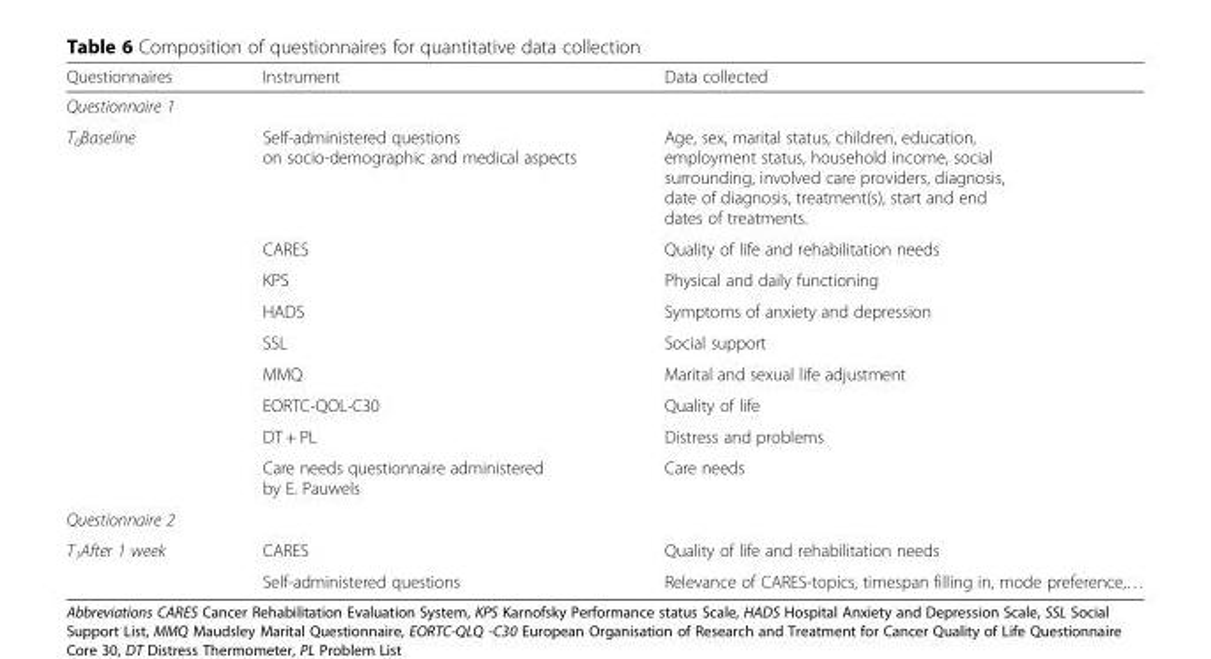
<table><thead><tr><td>Questionnaires</td><td>Instrument</td><td>Data collected</td></tr></thead><tbody><tr><td colspan="3">Questionnaire 1</td></tr><tr><td rowspan="9">T<sub>0</sub>Baseline</td><td>Self-administered questions on socio-demographic and medical aspects</td><td>Age, sex, marital status, children, education, employment status, household income, social surrounding, involved care providers, diagnosis, date of diagnosis, treatment(s), start and end dates of treatments.</td></tr><tr><td>CARES</td><td>Quality of life and rehabilitation needs</td></tr><tr><td>KPS</td><td>Physical and daily functioning</td></tr><tr><td>HADS</td><td>Symptoms of anxiety and depression</td></tr><tr><td>SSL</td><td>Social support</td></tr><tr><td>MMQ</td><td>Marital and sexual life adjustment</td></tr><tr><td>EORTC-QOL-C30</td><td>Quality of life</td></tr><tr><td>DT + PL</td><td>Distress and problems</td></tr><tr><td>Care needs questionnaire administered by E. Pauwels</td><td>Care needs</td></tr><tr><td colspan="3">Questionnaire 2</td></tr><tr><td rowspan="2">T<sub>1</sub>After 1 week</td><td>CARES</td><td>Quality of life and rehabilitation needs</td></tr><tr><td>Self-administered questions</td><td>Relevance of CARES-topics, timespan filling in, mode preference,…</td></tr></tbody></table>